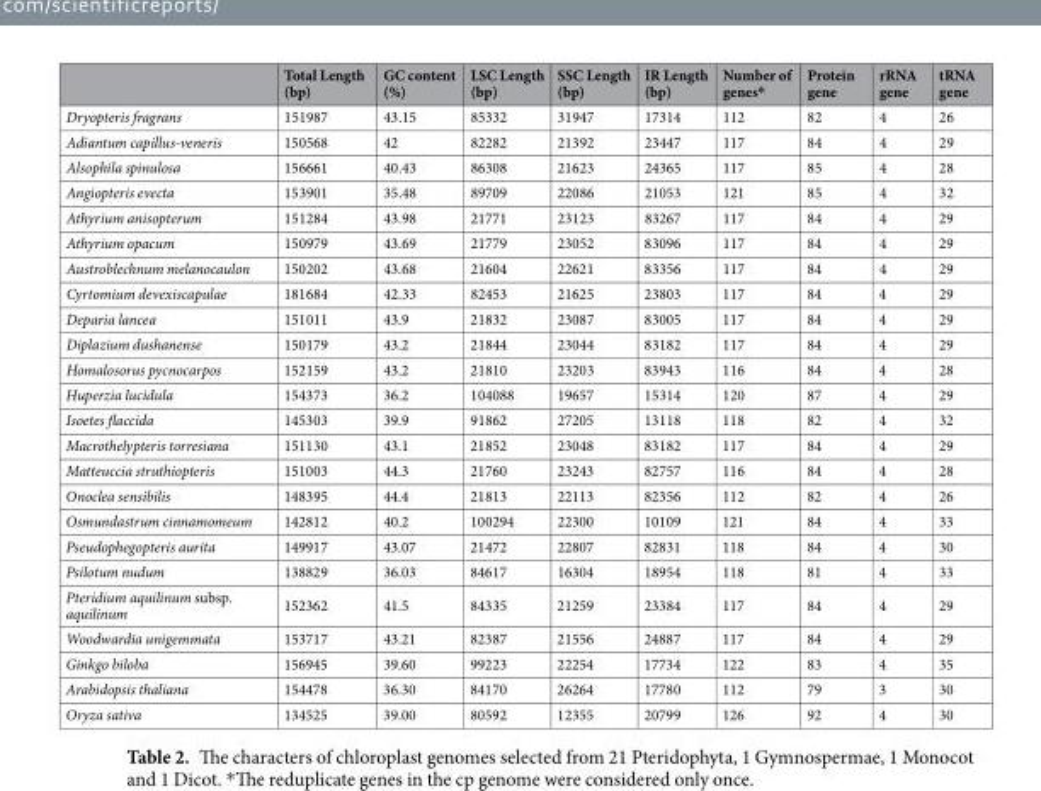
<table><thead><tr><td></td><td>Total Length (bp)</td><td>GC content (%)</td><td>LSC Length (bp)</td><td>SSC Length (bp)</td><td>IR Length (bp)</td><td>Number of genes*</td><td>Protein gene</td><td>rRNA gene</td><td>tRNA gene</td></tr></thead><tbody><tr><td>Dryopteris fragrans</td><td>151987</td><td>43.15</td><td>85332</td><td>31947</td><td>17314</td><td>112</td><td>82</td><td>4</td><td>26</td></tr><tr><td>Adiantum capillus-veneris</td><td>150568</td><td>42</td><td>82282</td><td>21392</td><td>23447</td><td>117</td><td>84</td><td>4</td><td>29</td></tr><tr><td>Alsophila spinulosa</td><td>156661</td><td>40.43</td><td>86308</td><td>21623</td><td>24365</td><td>117</td><td>85</td><td>4</td><td>28</td></tr><tr><td>Angiopteris evecta</td><td>153901</td><td>35.48</td><td>89709</td><td>22086</td><td>21053</td><td>121</td><td>85</td><td>4</td><td>32</td></tr><tr><td>Athyrium anisopterum</td><td>151284</td><td>43.98</td><td>21771</td><td>23123</td><td>83267</td><td>117</td><td>84</td><td>4</td><td>29</td></tr><tr><td>Athyrium opacum</td><td>150979</td><td>43.69</td><td>21779</td><td>23052</td><td>83096</td><td>117</td><td>84</td><td>4</td><td>29</td></tr><tr><td>Austroblechnum melanocaulon</td><td>150202</td><td>43.68</td><td>21604</td><td>22621</td><td>83356</td><td>117</td><td>84</td><td>4</td><td>29</td></tr><tr><td>Cyrtomium devexiscapulae</td><td>181684</td><td>42.33</td><td>82453</td><td>21625</td><td>23803</td><td>117</td><td>84</td><td>4</td><td>29</td></tr><tr><td>Deparia lancea</td><td>151011</td><td>43.9</td><td>21832</td><td>23087</td><td>83005</td><td>117</td><td>84</td><td>4</td><td>29</td></tr><tr><td>Diplazium dushanense</td><td>150179</td><td>43.2</td><td>21844</td><td>23044</td><td>83182</td><td>117</td><td>84</td><td>4</td><td>29</td></tr><tr><td>Homalosorus pycnocarpos</td><td>152159</td><td>43.2</td><td>21810</td><td>23203</td><td>83943</td><td>116</td><td>84</td><td>4</td><td>28</td></tr><tr><td>Huperzia lucidula</td><td>154373</td><td>36.2</td><td>104088</td><td>19657</td><td>15314</td><td>120</td><td>87</td><td>4</td><td>29</td></tr><tr><td>Isoetes flaccida</td><td>145303</td><td>39.9</td><td>91862</td><td>27205</td><td>13118</td><td>118</td><td>82</td><td>4</td><td>32</td></tr><tr><td>Macrothelypteris torresiana</td><td>151130</td><td>43.1</td><td>21852</td><td>23048</td><td>83182</td><td>117</td><td>84</td><td>4</td><td>29</td></tr><tr><td>Matteuccia struthiopteris</td><td>151003</td><td>44.3</td><td>21760</td><td>23243</td><td>82757</td><td>116</td><td>84</td><td>4</td><td>28</td></tr><tr><td>Onoclea sensibilis</td><td>148395</td><td>44.4</td><td>21813</td><td>22113</td><td>82356</td><td>112</td><td>82</td><td>4</td><td>26</td></tr><tr><td>Osmundastrum cinnamomeum</td><td>142812</td><td>40.2</td><td>100294</td><td>22300</td><td>10109</td><td>121</td><td>84</td><td>4</td><td>33</td></tr><tr><td>Pseudophegopteris aurita</td><td>149917</td><td>43.07</td><td>21472</td><td>22807</td><td>82831</td><td>118</td><td>84</td><td>4</td><td>30</td></tr><tr><td>Psilotum nudum</td><td>138829</td><td>36.03</td><td>84617</td><td>16304</td><td>18954</td><td>118</td><td>81</td><td>4</td><td>33</td></tr><tr><td>Pteridium aquilinum subsp. aquilinum</td><td>152362</td><td>41.5</td><td>84335</td><td>21259</td><td>23384</td><td>117</td><td>84</td><td>4</td><td>29</td></tr><tr><td>Woodwardia unigemmata</td><td>153717</td><td>43.21</td><td>82387</td><td>21556</td><td>24887</td><td>117</td><td>84</td><td>4</td><td>29</td></tr><tr><td>Ginkgo biloba</td><td>156945</td><td>39.60</td><td>99223</td><td>22254</td><td>17734</td><td>122</td><td>83</td><td>4</td><td>35</td></tr><tr><td>Arabidopsis thaliana</td><td>154478</td><td>36.30</td><td>84170</td><td>26264</td><td>17780</td><td>112</td><td>79</td><td>3</td><td>30</td></tr><tr><td>Oryza sativa</td><td>134525</td><td>39.00</td><td>80592</td><td>12355</td><td>20799</td><td>126</td><td>92</td><td>4</td><td>30</td></tr></tbody></table>